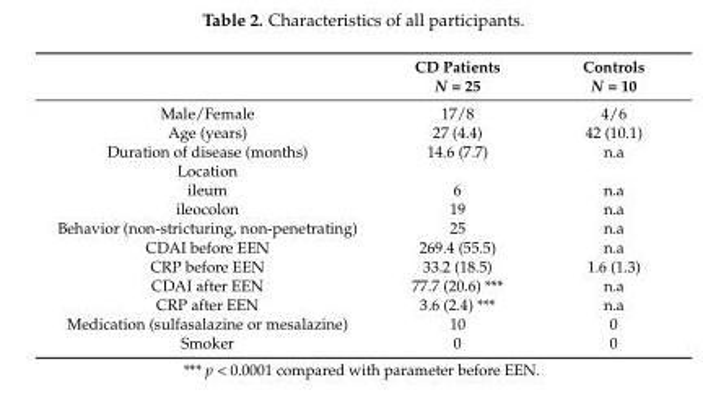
<table><thead><tr><td></td><td>CD Patients N = 25</td><td>Controls N = 10</td></tr></thead><tbody><tr><td>Male/Female</td><td>17/8</td><td>4/6</td></tr><tr><td>Age (years)</td><td>27 (4.4)</td><td>42 (10.1)</td></tr><tr><td>Duration of disease (months)</td><td>14.6 (7.7)</td><td>n.a</td></tr><tr><td colspan="3">Location</td></tr><tr><td>ileum</td><td>6</td><td>n.a</td></tr><tr><td>ileocolon</td><td>19</td><td>n.a</td></tr><tr><td>Behavior (non-stricturing, non-penetrating)</td><td>25</td><td>n.a</td></tr><tr><td>CDAI before EEN</td><td>269.4 (55.5)</td><td>n.a</td></tr><tr><td>CRP before EEN</td><td>33.2 (18.5)</td><td>1.6 (1.3)</td></tr><tr><td>CDAI after EEN</td><td>77.7 (20.6) ***</td><td>n.a</td></tr><tr><td>CRP after EEN</td><td>3.6 (2.4) ***</td><td>n.a</td></tr><tr><td>Medication (sulfasalazine or mesalazine)</td><td>10</td><td>0</td></tr><tr><td>Smoker</td><td>0</td><td>0</td></tr></tbody></table>